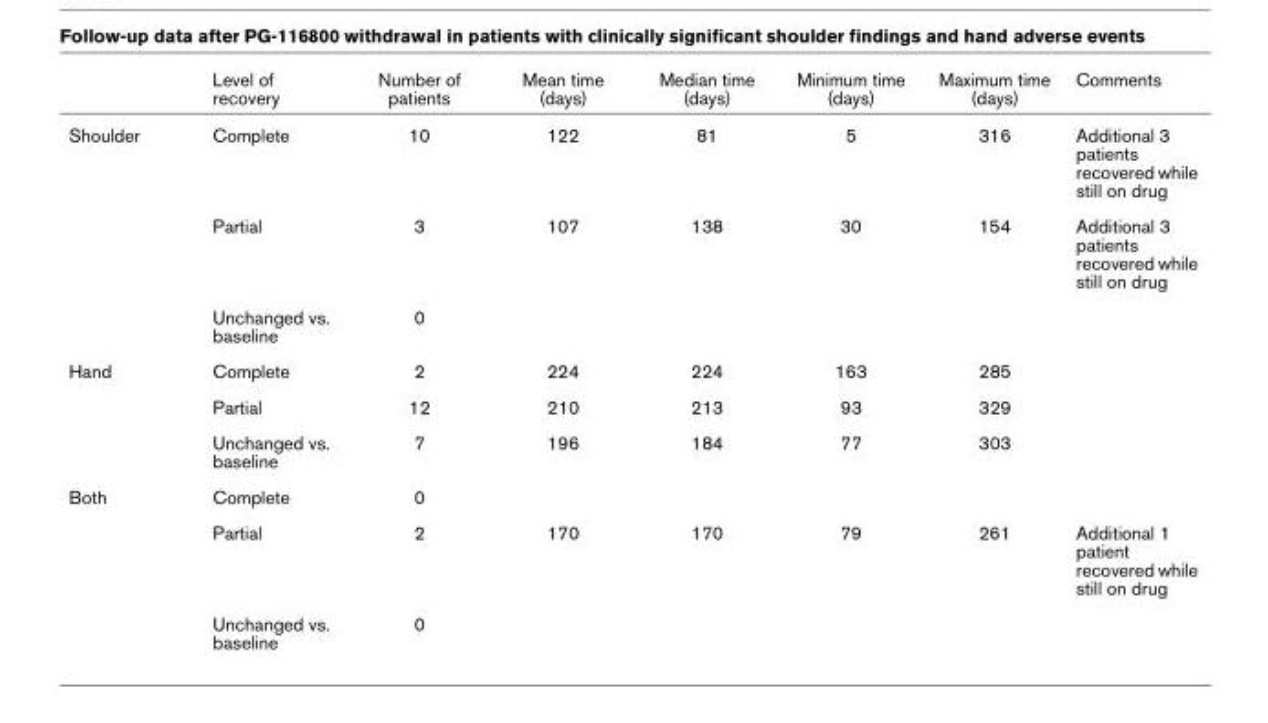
<table><thead><tr><td></td><td>Level of recovery</td><td>Number of patients</td><td>Mean time (days)</td><td>Median time (days)</td><td>Minimum time (days)</td><td>Maximum time (days)</td><td>Comments</td></tr></thead><tbody><tr><td rowspan="3">Shoulder</td><td>Complete</td><td>10</td><td>122</td><td>81</td><td>5</td><td>316</td><td>Additional 3 patients recovered while still on drug</td></tr><tr><td>Partial</td><td>3</td><td>107</td><td>138</td><td>30</td><td>154</td><td>Additional 3 patients recovered while still on drug</td></tr><tr><td>Unchanged vs. baseline</td><td>0</td><td></td><td></td><td></td><td></td><td></td></tr><tr><td rowspan="3">Hand</td><td>Complete</td><td>2</td><td>224</td><td>224</td><td>163</td><td>285</td><td></td></tr><tr><td>Partial</td><td>12</td><td>210</td><td>213</td><td>93</td><td>329</td><td></td></tr><tr><td>Unchanged vs. baseline</td><td>7</td><td>196</td><td>184</td><td>77</td><td>303</td><td></td></tr><tr><td rowspan="3">Both</td><td>Complete</td><td>0</td><td></td><td></td><td></td><td></td><td></td></tr><tr><td>Partial</td><td>2</td><td>170</td><td>170</td><td>79</td><td>261</td><td>Additional 1 patient recovered while still on drug</td></tr><tr><td>Unchanged vs. baseline</td><td>0</td><td></td><td></td><td></td><td></td><td></td></tr></tbody></table>